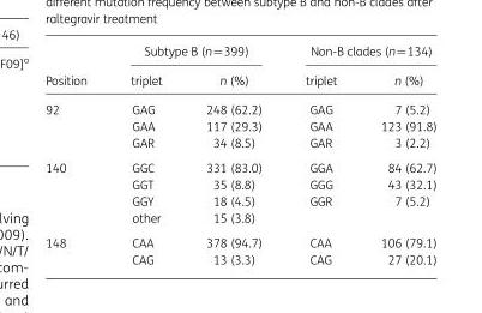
<table><thead><tr><td rowspan="2">Position</td><td colspan="2">Subtype B (n=399)</td><td colspan="2">Non-B clades (n=134)</td></tr><tr><td>triplet</td><td>n (%)</td><td>triplet</td><td>n (%)</td></tr></thead><tbody><tr><td rowspan="3">92</td><td>GAG</td><td>248 (62.2)</td><td>GAG</td><td>7 (5.2)</td></tr><tr><td>GAA</td><td>117 (29.3)</td><td>GAA</td><td>123 (91.8)</td></tr><tr><td>GAR</td><td>34 (8.5)</td><td>GAR</td><td>3 (2.2)</td></tr><tr><td rowspan="4">140</td><td>GGC</td><td>331 (83.0)</td><td>GGA</td><td>84 (62.7)</td></tr><tr><td>GGT</td><td>35 (8.8)</td><td>GGG</td><td>43 (32.1)</td></tr><tr><td>GGY</td><td>18 (4.5)</td><td>GGR</td><td>7 (5.2)</td></tr><tr><td>other</td><td>15 (3.8)</td><td></td><td></td></tr><tr><td rowspan="2">148</td><td>CAA</td><td>378 (94.7)</td><td>CAA</td><td>106 (79.1)</td></tr><tr><td>CAG</td><td>13 (3.3)</td><td>CAG</td><td>27 (20.1)</td></tr></tbody></table>